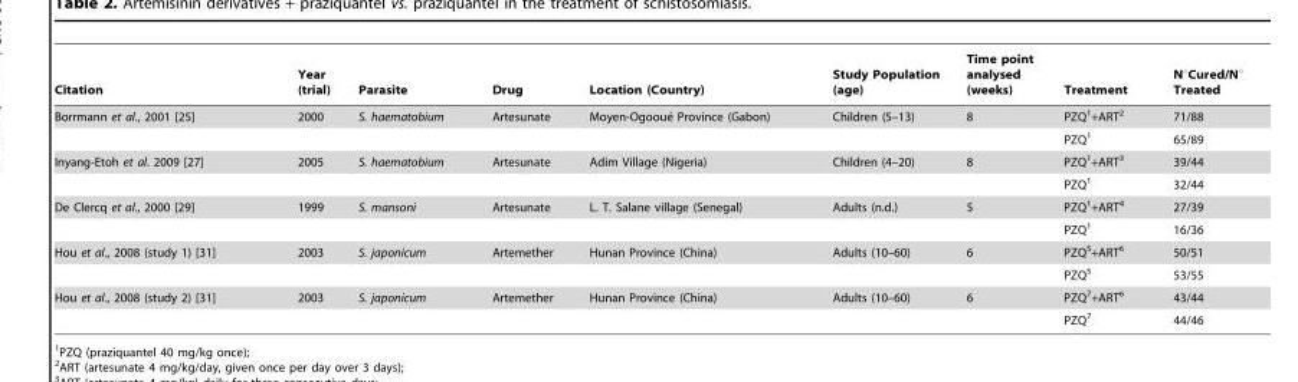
<table><thead><tr><td>Citation</td><td>Year (trial)</td><td>Parasite</td><td>Drug</td><td>Location (Country)</td><td>Study Population (age)</td><td>Time point analysed (weeks)</td><td>Treatment</td><td>N°Cured/N° Treated</td></tr></thead><tbody><tr><td rowspan="2">Borrmann et al., 2001 [25]</td><td>2000</td><td>S. haematobium</td><td>Artesunate</td><td>Moyen-Ogooue´ Province (Gabon)</td><td>Children (5–13)</td><td>8</td><td>PZQ<sup>1</sup>+ART<sup>2</sup></td><td>71/88</td></tr><tr><td></td><td></td><td></td><td></td><td></td><td></td><td>PZQ<sup>1</sup></td><td>65/89</td></tr><tr><td rowspan="2">Inyang-Etoh et al. 2009 [27]</td><td>2005</td><td>S. haematobium</td><td>Artesunate</td><td>Adim Village (Nigeria)</td><td>Children (4–20)</td><td>8</td><td>PZQ<sup>1</sup>+ART<sup>3</sup></td><td>39/44</td></tr><tr><td></td><td></td><td></td><td></td><td></td><td></td><td>PZQ<sup>1</sup></td><td>32/44</td></tr><tr><td rowspan="2">De Clercq et al., 2000 [29]</td><td>1999</td><td>S. mansoni</td><td>Artesunate</td><td>L. T. Salane village (Senegal)</td><td>Adults (n.d.)</td><td>5</td><td>PZQ<sup>1</sup>+ART<sup>4</sup></td><td>27/39</td></tr><tr><td></td><td></td><td></td><td></td><td></td><td></td><td>PZQ<sup>1</sup></td><td>16/36</td></tr><tr><td rowspan="2">Hou et al., 2008 (study 1) [31]</td><td>2003</td><td>S. japonicum</td><td>Artemether</td><td>Hunan Province (China)</td><td>Adults (10–60)</td><td>6</td><td>PZQ<sup>5</sup>+ART<sup>6</sup></td><td>50/51</td></tr><tr><td></td><td></td><td></td><td></td><td></td><td></td><td>PZQ<sup>5</sup></td><td>53/55</td></tr><tr><td rowspan="2">Hou et al., 2008 (study 2) [31]</td><td>2003</td><td>S. japonicum</td><td>Artemether</td><td>Hunan Province (China)</td><td>Adults (10–60)</td><td>6</td><td>PZQ<sup>7</sup>+ART<sup>6</sup></td><td>43/44</td></tr><tr><td></td><td></td><td></td><td></td><td></td><td></td><td>PZQ<sup>7</sup></td><td>44/46</td></tr></tbody></table>